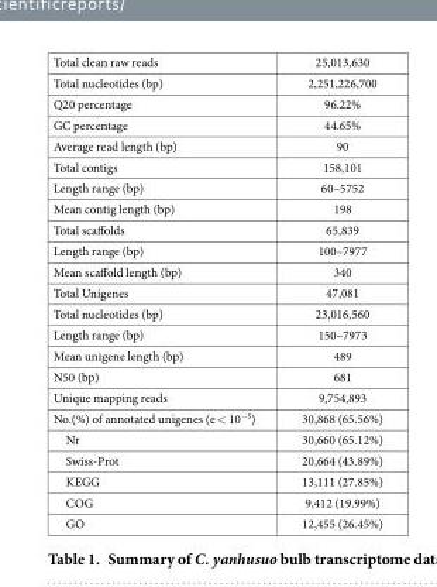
<table><tbody><tr><td>Total clean raw reads</td><td>25,013,630</td></tr><tr><td>Total nucleotides (bp)</td><td>2,251,226,700</td></tr><tr><td>Q20 percentage</td><td>96.22%</td></tr><tr><td>GC percentage</td><td>44.65%</td></tr><tr><td>Average read length (bp)</td><td>90</td></tr><tr><td>Total contigs</td><td>158,101</td></tr><tr><td>Length range (bp)</td><td>60–5752</td></tr><tr><td>Mean contig length (bp)</td><td>198</td></tr><tr><td>Total scaffolds</td><td>65,839</td></tr><tr><td>Length range (bp)</td><td>100–7977</td></tr><tr><td>Mean scaffold length (bp)</td><td>340</td></tr><tr><td>Total Unigenes</td><td>47,081</td></tr><tr><td>Total nucleotides (bp)</td><td>23,016,560</td></tr><tr><td>Length range (bp)</td><td>150–7973</td></tr><tr><td>Mean unigene length (bp)</td><td>489</td></tr><tr><td>N50 (bp)</td><td>681</td></tr><tr><td>Unique mapping reads</td><td>9,754,893</td></tr><tr><td>No.(%) of annotated unigenes (e &lt; 10<sup>−5</sup>)</td><td>30,868 (65.56%)</td></tr><tr><td>Nr</td><td>30,660 (65.12%)</td></tr><tr><td>Swiss-Prot</td><td>20,664 (43.89%)</td></tr><tr><td>KEGG</td><td>13,111 (27.85%)</td></tr><tr><td>COG</td><td>9,412 (19.99%)</td></tr><tr><td>GO</td><td>12,455 (26.45%)</td></tr></tbody></table>